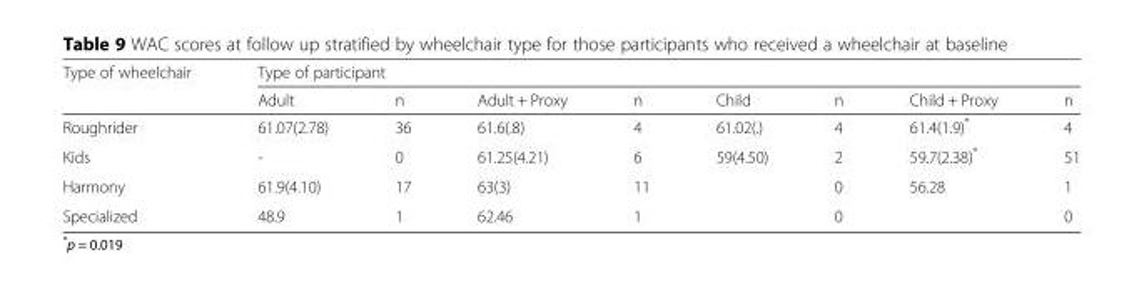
<table><thead><tr><td rowspan="2">Type of wheelchair</td><td colspan="8">Type of participant</td></tr><tr><td>Adult</td><td>n</td><td>Adult + Proxy</td><td>n</td><td>Child</td><td>n</td><td>Child + Proxy</td><td>n</td></tr></thead><tbody><tr><td>Roughrider</td><td>61.07(2.78)</td><td>36</td><td>61.6(.8)</td><td>4</td><td>61.02(.)</td><td>4</td><td>61.4(1.9)*</td><td>4</td></tr><tr><td>Kids</td><td>-</td><td>0</td><td>61.25(4.21)</td><td>6</td><td>59(4.50)</td><td>2</td><td>59.7(2.38)*</td><td>51</td></tr><tr><td>Harmony</td><td>61.9(4.10)</td><td>17</td><td>63(3)</td><td>11</td><td></td><td>0</td><td>56.28</td><td>1</td></tr><tr><td>Specialized</td><td>48.9</td><td>1</td><td>62.46</td><td>1</td><td></td><td>0</td><td></td><td>0</td></tr></tbody></table>